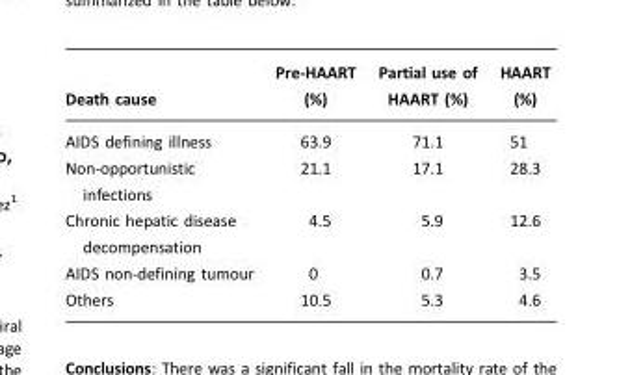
<table><thead><tr><td>Death cause</td><td>Pre-HAART (%)</td><td>Partial use of HAART (%)</td><td>HAART (%)</td></tr></thead><tbody><tr><td>AIDS defining illness</td><td>63.9</td><td>71.1</td><td>51</td></tr><tr><td>Non-opportunistic infections</td><td>21.1</td><td>17.1</td><td>28.3</td></tr><tr><td>Chronic hepatic disease decompensation</td><td>4.5</td><td>5.9</td><td>12.6</td></tr><tr><td>AIDS non-defining tumour</td><td>0</td><td>0.7</td><td>3.5</td></tr><tr><td>Others</td><td>10.5</td><td>5.3</td><td>4.6</td></tr></tbody></table>